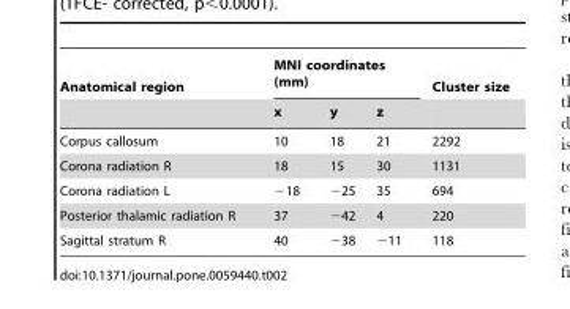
<table><thead><tr><td rowspan="2">Anatomical region</td><td colspan="3">MNI coordinates (mm)</td><td rowspan="2">Cluster size</td></tr><tr><td>x</td><td>y</td><td>z</td></tr></thead><tbody><tr><td>Corpus callosum</td><td>10</td><td>18</td><td>21</td><td>2292</td></tr><tr><td>Corona radiation R</td><td>18</td><td>15</td><td>30</td><td>1131</td></tr><tr><td>Corona radiation L</td><td>−18</td><td>−25</td><td>35</td><td>694</td></tr><tr><td>Posterior thalamic radiation R</td><td>37</td><td>−42</td><td>4</td><td>220</td></tr><tr><td>Sagittal stratum R</td><td>40</td><td>−38</td><td>−11</td><td>118</td></tr></tbody></table>